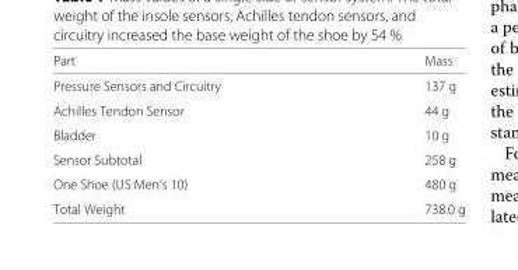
<table><thead><tr><td>Part</td><td>Mass</td></tr></thead><tbody><tr><td>Pressure Sensors and Circuitry</td><td>137 g</td></tr><tr><td>Achilles Tendon Sensor</td><td>44 g</td></tr><tr><td>Bladder</td><td>10 g</td></tr><tr><td>Sensor Subtotal</td><td>258 g</td></tr><tr><td>One Shoe (US Men’s 10)</td><td>480 g</td></tr><tr><td>Total Weight</td><td>738.0 g</td></tr></tbody></table>